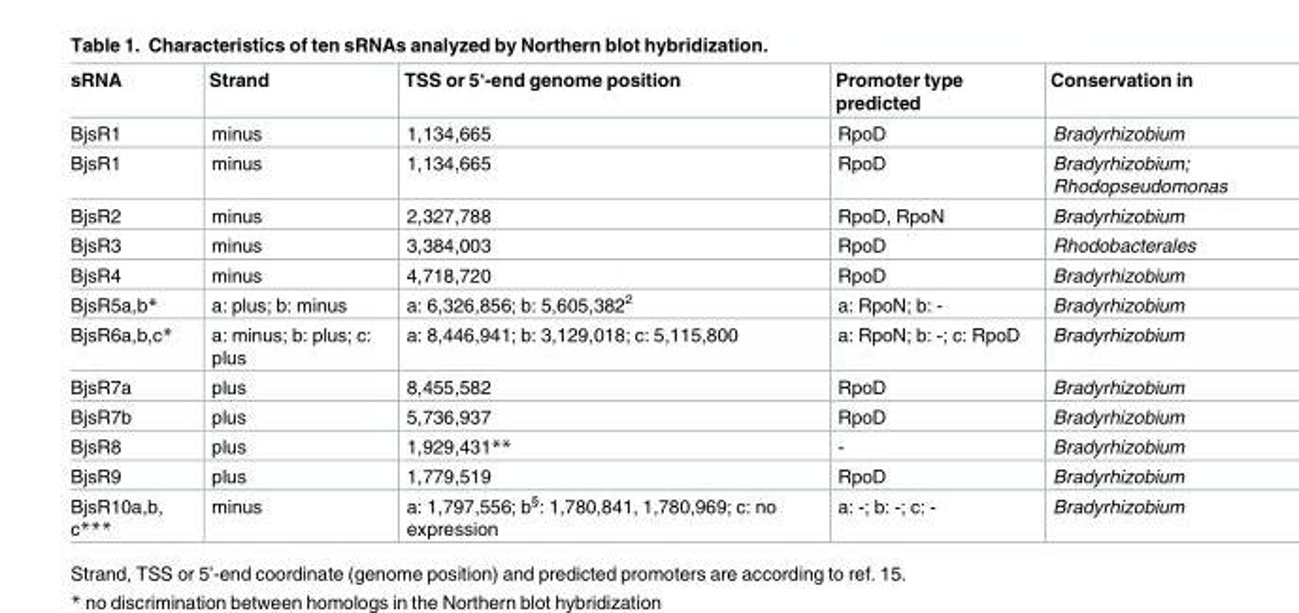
<table><thead><tr><td>sRNA</td><td>Strand</td><td>TSS or 5‘-end genome position</td><td>Promoter type predicted</td><td>Conservation in</td></tr></thead><tbody><tr><td>BjsR1</td><td>minus</td><td>1,134,665</td><td>RpoD</td><td>Bradyrhizobium</td></tr><tr><td>BjsR1</td><td>minus</td><td>1,134,665</td><td>RpoD</td><td>Bradyrhizobium; Rhodopseudomonas</td></tr><tr><td>BjsR2</td><td>minus</td><td>2,327,788</td><td>RpoD, RpoN</td><td>Bradyrhizobium</td></tr><tr><td>BjsR3</td><td>minus</td><td>3,384,003</td><td>RpoD</td><td>Rhodobacterales</td></tr><tr><td>BjsR4</td><td>minus</td><td>4,718,720</td><td>RpoD</td><td>Bradyrhizobium</td></tr><tr><td>BjsR5a,b*</td><td>a: plus; b: minus</td><td>a: 6,326,856; b: 5,605,382<sup>2</sup></td><td>a: RpoN; b: -</td><td>Bradyrhizobium</td></tr><tr><td>BjsR6a,b,c*</td><td>a: minus; b: plus; c: plus</td><td>a: 8,446,941; b: 3,129,018; c: 5,115,800</td><td>a: RpoN; b: -; c: RpoD</td><td>Bradyrhizobium</td></tr><tr><td>BjsR7a</td><td>plus</td><td>8,455,582</td><td>RpoD</td><td>Bradyrhizobium</td></tr><tr><td>BjsR7b</td><td>plus</td><td>5,736,937</td><td>RpoD</td><td>Bradyrhizobium</td></tr><tr><td>BjsR8</td><td>plus</td><td>1,929,431**</td><td>-</td><td>Bradyrhizobium</td></tr><tr><td>BjsR9</td><td>plus</td><td>1,779,519</td><td>RpoD</td><td>Bradyrhizobium</td></tr><tr><td>BjsR10a,b, c***</td><td>minus</td><td>a: 1,797,556; b<sup>§</sup>: 1,780,841, 1,780,969; c: no expression</td><td>a: -; b: -; c: -</td><td>Bradyrhizobium</td></tr></tbody></table>